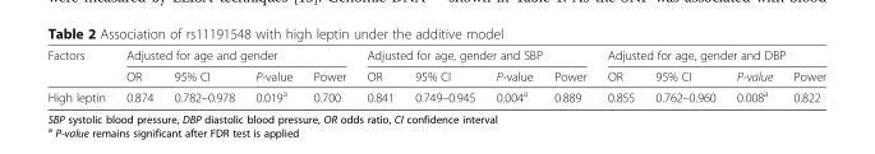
<table><thead><tr><td rowspan="2">Factors</td><td colspan="4">Adjusted for age and gender</td><td colspan="4">Adjusted for age, gender and SBP</td><td colspan="4">Adjusted for age, gender and DBP</td></tr><tr><td>OR</td><td>95% CI</td><td>P-value</td><td>Power</td><td>OR</td><td>95% CI</td><td>P-value</td><td>Power</td><td>OR</td><td>95% CI</td><td>P-value</td><td>Power</td></tr></thead><tbody><tr><td>High leptin</td><td>0.874</td><td>0.782–0.978</td><td>0.019<sup>a</sup></td><td>0.700</td><td>0.841</td><td>0.749–0.945</td><td>0.004<sup>a</sup></td><td>0.889</td><td>0.855</td><td>0.762–0.960</td><td>0.008<sup>a</sup></td><td>0.822</td></tr></tbody></table>